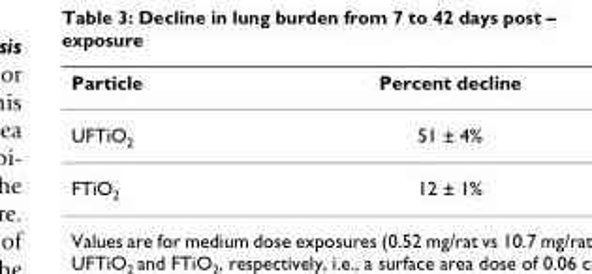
<table><thead><tr><td>Particle</td><td>Percent decline</td></tr></thead><tbody><tr><td>UFTiO<sub>2</sub></td><td>51 ± 4%</td></tr><tr><td>FTiO<sub>2</sub></td><td>12 ± 1%</td></tr></tbody></table>